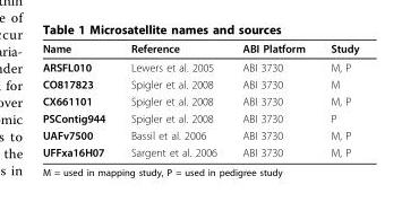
<table><thead><tr><td>Name</td><td>Reference</td><td>ABI Platform</td><td>Study</td></tr></thead><tbody><tr><td>ARSFL010</td><td>Lewers et al. 2005</td><td>ABI 3730</td><td>M, P</td></tr><tr><td>CO817823</td><td>Spigler et al. 2008</td><td>ABI 3730</td><td>M</td></tr><tr><td>CX661101</td><td>Spigler et al. 2008</td><td>ABI 3730</td><td>M, P</td></tr><tr><td>PSContig944</td><td>Spigler et al. 2008</td><td>ABI 3730</td><td>P</td></tr><tr><td>UAFv7500</td><td>Bassil et al. 2006</td><td>ABI 3730</td><td>M, P</td></tr><tr><td>UFFxa16H07</td><td>Sargent et al. 2006</td><td>ABI 3730</td><td>M, P</td></tr></tbody></table>